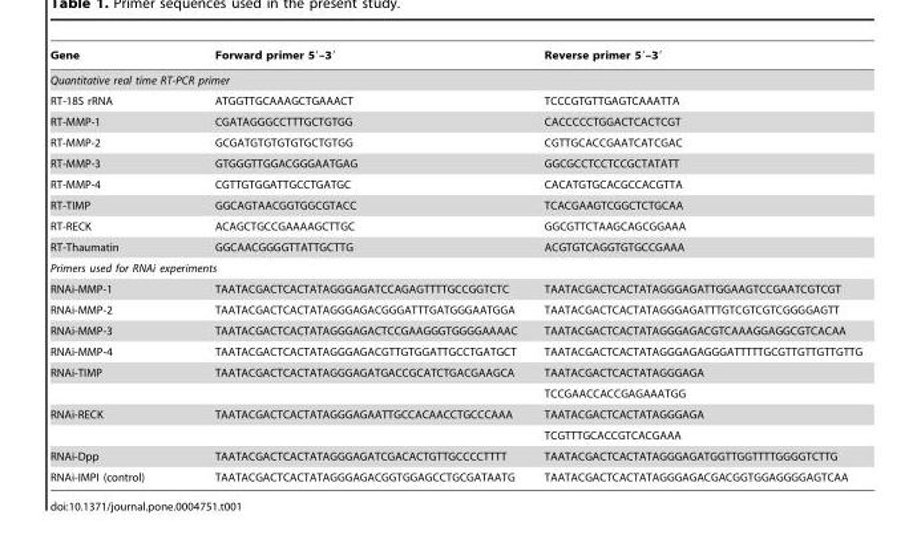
<table><thead><tr><td>Gene</td><td>Forward primer 5′–3′</td><td>Reverse primer 5′–3′</td></tr></thead><tbody><tr><td colspan="3">Quantitative real time RT-PCR primer</td></tr><tr><td>RT-18S rRNA</td><td>ATGGTTGCAAAGCTGAAACT</td><td>TCCCGTGTTGAGTCAAATTA</td></tr><tr><td>RT-MMP-1</td><td>CGATAGGGCCTTTGCTGTGG</td><td>CACCCCCTGGACTCACTCGT</td></tr><tr><td>RT-MMP-2</td><td>GCGATGTGTGTGTGCTGTGG</td><td>CGTTGCACCGAATCATCGAC</td></tr><tr><td>RT-MMP-3</td><td>GTGGGTTGGACGGGAATGAG</td><td>GGCGCCTCCTCCGCTATATT</td></tr><tr><td>RT-MMP-4</td><td>CGTTGTGGATTGCCTGATGC</td><td>CACATGTGCACGCCACGTTA</td></tr><tr><td>RT-TIMP</td><td>GGCAGTAACGGTGGCGTACC</td><td>TCACGAAGTCGGCTCTGCAA</td></tr><tr><td>RT-RECK</td><td>ACAGCTGCCGAAAAGCTTGC</td><td>GGCGTTCTAAGCAGCGGAAA</td></tr><tr><td>RT-Thaumatin</td><td>GGCAACGGGGTTATTGCTTG</td><td>ACGTGTCAGGTGTGCCGAAA</td></tr><tr><td colspan="3">Primers used for RNAi experiments</td></tr><tr><td>RNAi-MMP-1</td><td>TAATACGACTCACTATAGGGAGATCCAGAGTTTTGCCGGTCTC</td><td>TAATACGACTCACTATAGGGAGATTGGAAGTCCGAATCGTCGT</td></tr><tr><td>RNAi-MMP-2</td><td>TAATACGACTCACTATAGGGAGACGGGATTTGATGGGAATGGA</td><td>TAATACGACTCACTATAGGGAGATTTGTCGTCGTCGGGGAGTT</td></tr><tr><td>RNAi-MMP-3</td><td>TAATACGACTCACTATAGGGAGACTCCGAAGGGTGGGGAAAAC</td><td>TAATACGACTCACTATAGGGAGACGTCAAAGGAGGCGTCACAA</td></tr><tr><td>RNAi-MMP-4</td><td>TAATACGACTCACTATAGGGAGACGTTGTGGATTGCCTGATGCT</td><td>TAATACGACTCACTATAGGGAGAGGGATTTTTGCGTTGTTGTTGTTG</td></tr><tr><td rowspan="2">RNAi-TIMP</td><td>TAATACGACTCACTATAGGGAGATGACCGCATCTGACGAAGCA</td><td>TAATACGACTCACTATAGGGAGA</td></tr><tr><td></td><td>TCCGAACCACCGAGAAATGG</td></tr><tr><td rowspan="2">RNAi-RECK</td><td>TAATACGACTCACTATAGGGAGAATTGCCACAACCTGCCCAAA</td><td>TAATACGACTCACTATAGGGAGA</td></tr><tr><td></td><td>TCGTTTGCACCGTCACGAAA</td></tr><tr><td>RNAi-Dpp</td><td>TAATACGACTCACTATAGGGAGATCGACACTGTTGCCCCTTTT</td><td>TAATACGACTCACTATAGGGAGATGGTTGGTTTTGGGGTCTTG</td></tr><tr><td>RNAi-IMPI (control)</td><td>TAATACGACTCACTATAGGGAGACGGTGGAGCCTGCGATAATG</td><td>TAATACGACTCACTATAGGGAGACGACGGTGGAGGGGAGTCAA</td></tr></tbody></table>